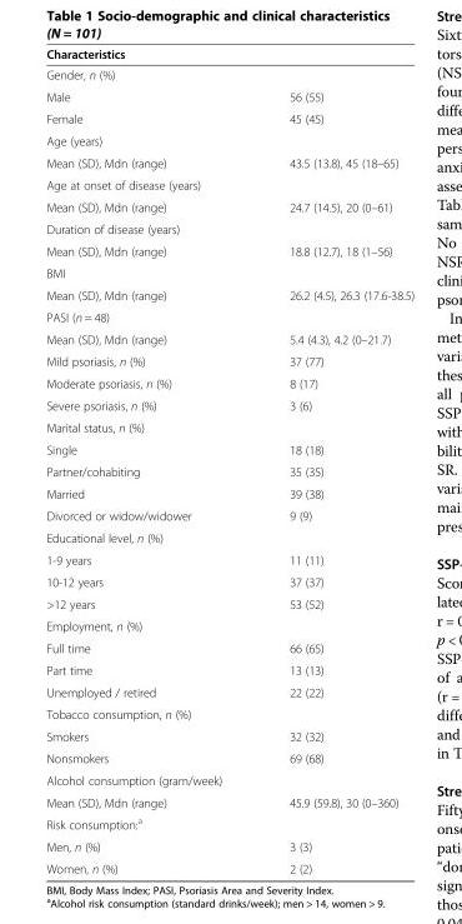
<table><thead><tr><td>Characteristics</td><td></td></tr></thead><tbody><tr><td colspan="2">Gender, n (%)</td></tr><tr><td>Male</td><td>56 (55)</td></tr><tr><td>Female</td><td>45 (45)</td></tr><tr><td colspan="2">Age (years)</td></tr><tr><td>Mean (SD), Mdn (range)</td><td>43.5 (13.8), 45 (18–65)</td></tr><tr><td colspan="2">Age at onset of disease (years)</td></tr><tr><td>Mean (SD), Mdn (range)</td><td>24.7 (14.5), 20 (0–61)</td></tr><tr><td colspan="2">Duration of disease (years)</td></tr><tr><td>Mean (SD), Mdn (range)</td><td>18.8 (12.7), 18 (1–56)</td></tr><tr><td colspan="2">BMI</td></tr><tr><td>Mean (SD), Mdn (range)</td><td>26.2 (4.5), 26.3 (17.6-38.5)</td></tr><tr><td colspan="2">PASI (n = 48)</td></tr><tr><td>Mean (SD), Mdn (range)</td><td>5.4 (4.3), 4.2 (0–21.7)</td></tr><tr><td>Mild psoriasis, n (%)</td><td>37 (77)</td></tr><tr><td>Moderate psoriasis, n (%)</td><td>8 (17)</td></tr><tr><td>Severe psoriasis, n (%)</td><td>3 (6)</td></tr><tr><td colspan="2">Marital status, n (%)</td></tr><tr><td>Single</td><td>18 (18)</td></tr><tr><td>Partner/cohabiting</td><td>35 (35)</td></tr><tr><td>Married</td><td>39 (38)</td></tr><tr><td>Divorced or widow/widower</td><td>9 (9)</td></tr><tr><td colspan="2">Educational level, n (%)</td></tr><tr><td>1-9 years</td><td>11 (11)</td></tr><tr><td>10-12 years</td><td>37 (37)</td></tr><tr><td>&gt;12 years</td><td>53 (52)</td></tr><tr><td colspan="2">Employment, n (%)</td></tr><tr><td>Full time</td><td>66 (65)</td></tr><tr><td>Part time</td><td>13 (13)</td></tr><tr><td>Unemployed / retired</td><td>22 (22)</td></tr><tr><td colspan="2">Tobacco consumption, n (%)</td></tr><tr><td>Smokers</td><td>32 (32)</td></tr><tr><td>Nonsmokers</td><td>69 (68)</td></tr><tr><td colspan="2">Alcohol consumption (gram/week)</td></tr><tr><td>Mean (SD), Mdn (range)</td><td>45.9 (59.8), 30 (0–360)</td></tr><tr><td colspan="2">Risk consumption:<sup>a</sup></td></tr><tr><td>Men, n (%)</td><td>3 (3)</td></tr><tr><td>Women, n (%)</td><td>2 (2)</td></tr></tbody></table>